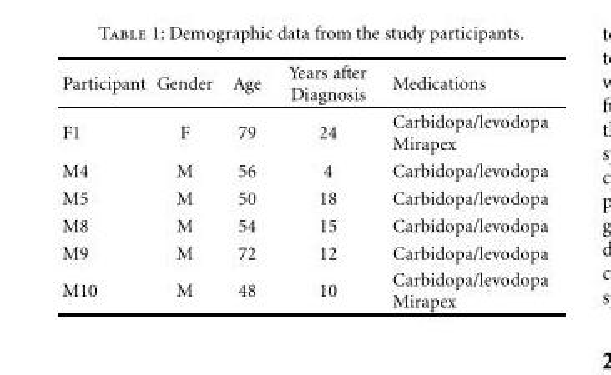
<table><thead><tr><td>Participant</td><td>Gender</td><td>Age</td><td>Years after Diagnosis</td><td>Medications</td></tr></thead><tbody><tr><td>F1</td><td>F</td><td>79</td><td>24</td><td>Carbidopa/levodopa Mirapex</td></tr><tr><td>M4</td><td>M</td><td>56</td><td>4</td><td>Carbidopa/levodopa</td></tr><tr><td>M5</td><td>M</td><td>50</td><td>18</td><td>Carbidopa/levodopa</td></tr><tr><td>M8</td><td>M</td><td>54</td><td>15</td><td>Carbidopa/levodopa</td></tr><tr><td>M9</td><td>M</td><td>72</td><td>12</td><td>Carbidopa/levodopa</td></tr><tr><td>M10</td><td>M</td><td>48</td><td>10</td><td>Carbidopa/levodopa Mirapex</td></tr></tbody></table>